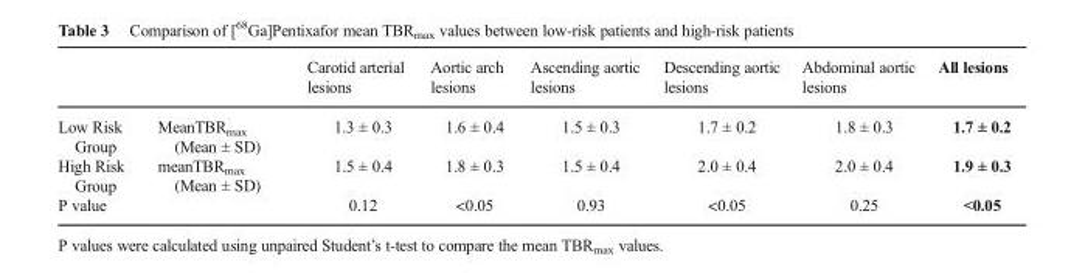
<table><thead><tr><td></td><td></td><td>Carotid arterial lesions</td><td>Aortic arch lesions</td><td>Ascending aortic lesions</td><td>Descending aortic lesions</td><td>Abdominal aortic lesions</td><td>All lesions</td></tr></thead><tbody><tr><td>Low Risk Group</td><td>MeanTBR<sub>max</sub> (Mean ± SD)</td><td>1.3 ± 0.3</td><td>1.6 ± 0.4</td><td>1.5 ± 0.3</td><td>1.7 ± 0.2</td><td>1.8 ± 0.3</td><td>1.7 ± 0.2</td></tr><tr><td>High Risk Group</td><td>meanTBR<sub>max</sub> (Mean ± SD)</td><td>1.5 ± 0.4</td><td>1.8 ± 0.3</td><td>1.5 ± 0.4</td><td>2.0 ± 0.4</td><td>2.0 ± 0.4</td><td>1.9 ± 0.3</td></tr><tr><td colspan="2">P value</td><td>0.12</td><td>&lt;0.05</td><td>0.93</td><td>&lt;0.05</td><td>0.25</td><td>&lt;0.05</td></tr></tbody></table>